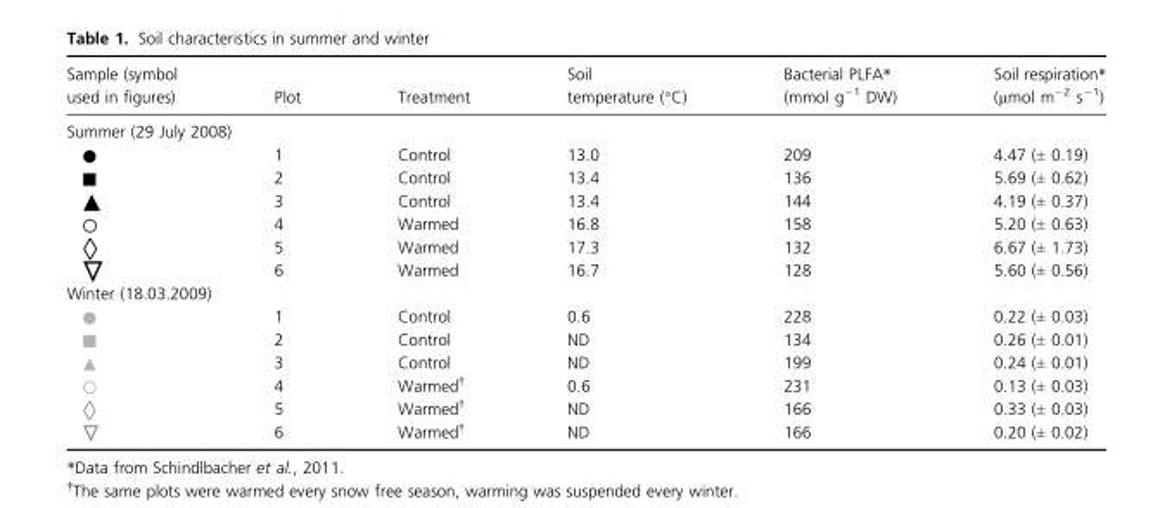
<table><thead><tr><td>Sample (symbol used in figures)</td><td>Plot</td><td>Treatment</td><td>Soil temperature (°C)</td><td>Bacterial PLFA* (mmol g<sup>−1</sup> DW)</td><td>Soil respiration* (μmol m<sup>−2</sup> s<sup>−1</sup>)</td></tr></thead><tbody><tr><td colspan="6">Summer (29 July 2008)</td></tr><tr><td></td><td>1</td><td>Control</td><td>13.0</td><td>209</td><td>4.47 (± 0.19)</td></tr><tr><td></td><td>2</td><td>Control</td><td>13.4</td><td>136</td><td>5.69 (± 0.62)</td></tr><tr><td></td><td>3</td><td>Control</td><td>13.4</td><td>144</td><td>4.19 (± 0.37)</td></tr><tr><td></td><td>4</td><td>Warmed</td><td>16.8</td><td>158</td><td>5.20 (± 0.63)</td></tr><tr><td></td><td>5</td><td>Warmed</td><td>17.3</td><td>132</td><td>6.67 (± 1.73)</td></tr><tr><td></td><td>6</td><td>Warmed</td><td>16.7</td><td>128</td><td>5.60 (± 0.56)</td></tr><tr><td colspan="6">Winter (18.03.2009)</td></tr><tr><td></td><td>1</td><td>Control</td><td>0.6</td><td>228</td><td>0.22 (± 0.03)</td></tr><tr><td></td><td>2</td><td>Control</td><td>ND</td><td>134</td><td>0.26 (± 0.01)</td></tr><tr><td></td><td>3</td><td>Control</td><td>ND</td><td>199</td><td>0.24 (± 0.01)</td></tr><tr><td></td><td>4</td><td>Warmed†</td><td>0.6</td><td>231</td><td>0.13 (± 0.03)</td></tr><tr><td></td><td>5</td><td>Warmed†</td><td>ND</td><td>166</td><td>0.33 (± 0.03)</td></tr><tr><td></td><td>6</td><td>Warmed†</td><td>ND</td><td>166</td><td>0.20 (± 0.02)</td></tr></tbody></table>